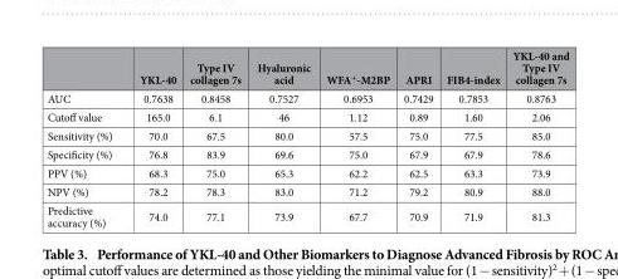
<table><thead><tr><td></td><td>YKL-40</td><td>Type IV collagen 7s</td><td>Hyaluronic acid</td><td>WFA<sup>+</sup>-M2BP</td><td>APRI</td><td>FIB4-index</td><td>YKL-40 and Type IV collagen 7s</td></tr></thead><tbody><tr><td>AUC</td><td>0.7638</td><td>0.8458</td><td>0.7527</td><td>0.6953</td><td>0.7429</td><td>0.7853</td><td>0.8763</td></tr><tr><td>Cutoff value</td><td>165.0</td><td>6.1</td><td>46</td><td>1.12</td><td>0.89</td><td>1.60</td><td>2.06</td></tr><tr><td>Sensitivity (%)</td><td>70.0</td><td>67.5</td><td>80.0</td><td>57.5</td><td>75.0</td><td>77.5</td><td>85.0</td></tr><tr><td>Specificity (%)</td><td>76.8</td><td>83.9</td><td>69.6</td><td>75.0</td><td>67.9</td><td>67.9</td><td>78.6</td></tr><tr><td>PPV (%)</td><td>68.3</td><td>75.0</td><td>65.3</td><td>62.2</td><td>62.5</td><td>63.3</td><td>73.9</td></tr><tr><td>NPV (%)</td><td>78.2</td><td>78.3</td><td>83.0</td><td>71.2</td><td>79.2</td><td>80.9</td><td>88.0</td></tr><tr><td>Predictive accuracy (%)</td><td>74.0</td><td>77.1</td><td>73.9</td><td>67.7</td><td>70.9</td><td>71.9</td><td>81.3</td></tr></tbody></table>